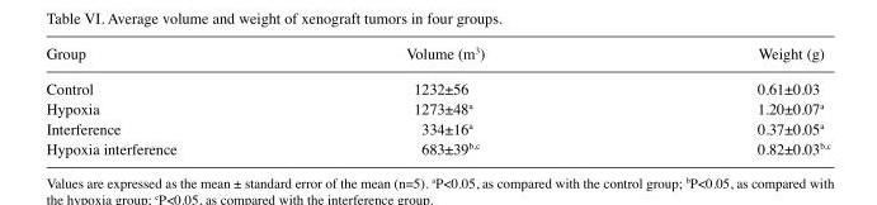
<table><thead><tr><td>Group</td><td>Volume (m<sup>3</sup>)</td><td>Weight (g)</td></tr></thead><tbody><tr><td>Control</td><td>1232±56</td><td>0.61±0.03</td></tr><tr><td>Hypoxia</td><td>1273±48<sup>a</sup></td><td>1.20±0.07<sup>a</sup></td></tr><tr><td>Interference</td><td>334±16<sup>a</sup></td><td>0.37±0.05<sup>a</sup></td></tr><tr><td>Hypoxia interference</td><td>683±39<sup>b</sup>,<sup>c</sup></td><td>0.82±0.03<sup>b</sup>,<sup>c</sup></td></tr></tbody></table>